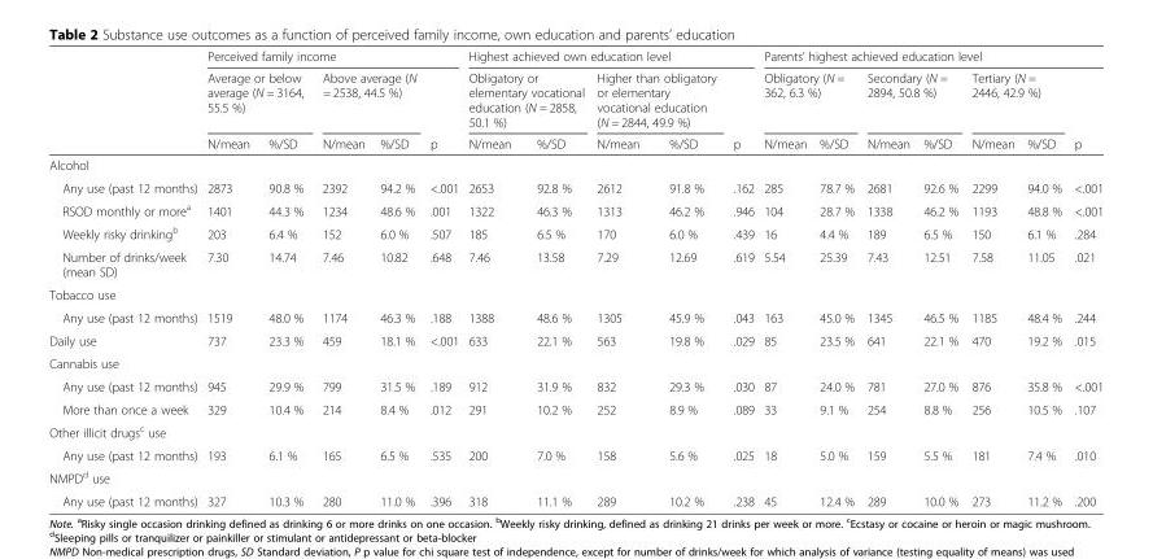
<table><thead><tr><td rowspan="3"></td><td colspan="5">Perceived family income</td><td colspan="5">Highest achieved own education level</td><td colspan="7">Parents’ highest achieved education level</td></tr><tr><td colspan="2">Average or below average (N = 3164, 55.5 %)</td><td colspan="2">Above average (N = 2538, 44.5 %)</td><td rowspan="2">p</td><td colspan="2">Obligatory or elementary vocational education (N = 2858, 50.1 %)</td><td colspan="2">Higher than obligatory or elementary vocational education (N = 2844, 49.9 %)</td><td rowspan="2">p</td><td colspan="2">Obligatory (N = 362, 6.3 %)</td><td colspan="2">Secondary (N = 2894, 50.8 %)</td><td colspan="2">Tertiary (N = 2446, 42.9 %)</td><td rowspan="2">p</td></tr><tr><td>N/mean</td><td>%/SD</td><td>N/mean</td><td>%/SD</td><td>N/mean</td><td>%/SD</td><td>N/mean</td><td>%/SD</td><td>N/mean</td><td>%/SD</td><td>N/mean</td><td>%/SD</td><td>N/mean</td><td>%/SD</td></tr></thead><tbody><tr><td colspan="18">Alcohol</td></tr><tr><td>Any use (past 12 months)</td><td>2873</td><td>90.8 %</td><td>2392</td><td>94.2 %</td><td>&lt;.001</td><td>2653</td><td>92.8 %</td><td>2612</td><td>91.8 %</td><td>.162</td><td>285</td><td>78.7 %</td><td>2681</td><td>92.6 %</td><td>2299</td><td>94.0 %</td><td>&lt;.001</td></tr><tr><td>RSOD monthly or more<sup>a</sup></td><td>1401</td><td>44.3 %</td><td>1234</td><td>48.6 %</td><td>.001</td><td>1322</td><td>46.3 %</td><td>1313</td><td>46.2 %</td><td>.946</td><td>104</td><td>28.7 %</td><td>1338</td><td>46.2 %</td><td>1193</td><td>48.8 %</td><td>&lt;.001</td></tr><tr><td>Weekly risky drinking<sup>b</sup></td><td>203</td><td>6.4 %</td><td>152</td><td>6.0 %</td><td>.507</td><td>185</td><td>6.5 %</td><td>170</td><td>6.0 %</td><td>.439</td><td>16</td><td>4.4 %</td><td>189</td><td>6.5 %</td><td>150</td><td>6.1 %</td><td>.284</td></tr><tr><td>Number of drinks/week (mean SD)</td><td>7.30</td><td>14.74</td><td>7.46</td><td>10.82</td><td>.648</td><td>7.46</td><td>13.58</td><td>7.29</td><td>12.69</td><td>.619</td><td>5.54</td><td>25.39</td><td>7.43</td><td>12.51</td><td>7.58</td><td>11.05</td><td>.021</td></tr><tr><td colspan="18">Tobacco use</td></tr><tr><td>Any use (past 12 months)</td><td>1519</td><td>48.0 %</td><td>1174</td><td>46.3 %</td><td>.188</td><td>1388</td><td>48.6 %</td><td>1305</td><td>45.9 %</td><td>.043</td><td>163</td><td>45.0 %</td><td>1345</td><td>46.5 %</td><td>1185</td><td>48.4 %</td><td>.244</td></tr><tr><td>Daily use</td><td>737</td><td>23.3 %</td><td>459</td><td>18.1 %</td><td>&lt;.001</td><td>633</td><td>22.1 %</td><td>563</td><td>19.8 %</td><td>.029</td><td>85</td><td>23.5 %</td><td>641</td><td>22.1 %</td><td>470</td><td>19.2 %</td><td>.015</td></tr><tr><td colspan="18">Cannabis use</td></tr><tr><td>Any use (past 12 months)</td><td>945</td><td>29.9 %</td><td>799</td><td>31.5 %</td><td>.189</td><td>912</td><td>31.9 %</td><td>832</td><td>29.3 %</td><td>.030</td><td>87</td><td>24.0 %</td><td>781</td><td>27.0 %</td><td>876</td><td>35.8 %</td><td>&lt;.001</td></tr><tr><td>More than once a week</td><td>329</td><td>10.4 %</td><td>214</td><td>8.4 %</td><td>.012</td><td>291</td><td>10.2 %</td><td>252</td><td>8.9 %</td><td>.089</td><td>33</td><td>9.1 %</td><td>254</td><td>8.8 %</td><td>256</td><td>10.5 %</td><td>.107</td></tr><tr><td colspan="18">Other illicit drugs<sup>c</sup> use</td></tr><tr><td>Any use (past 12 months)</td><td>193</td><td>6.1 %</td><td>165</td><td>6.5 %</td><td>.535</td><td>200</td><td>7.0 %</td><td>158</td><td>5.6 %</td><td>.025</td><td>18</td><td>5.0 %</td><td>159</td><td>5.5 %</td><td>181</td><td>7.4 %</td><td>.010</td></tr><tr><td colspan="18">NMPD<sup>d</sup> use</td></tr><tr><td>Any use (past 12 months)</td><td>327</td><td>10.3 %</td><td>280</td><td>11.0 %</td><td>.396</td><td>318</td><td>11.1 %</td><td>289</td><td>10.2 %</td><td>.238</td><td>45</td><td>12.4 %</td><td>289</td><td>10.0 %</td><td>273</td><td>11.2 %</td><td>.200</td></tr></tbody></table>